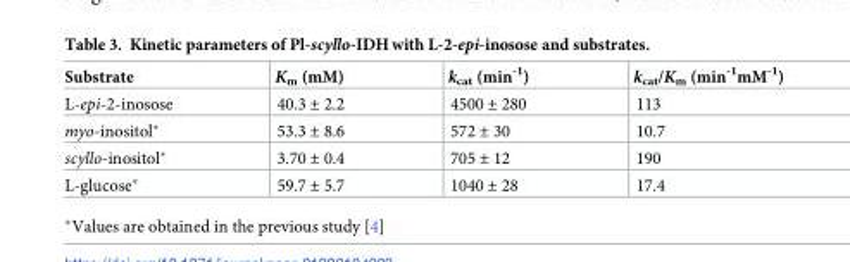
<table><thead><tr><td>Substrate</td><td>K<sub>m</sub> (mM)</td><td>k<sub>cat</sub> (min<sup>-1</sup>)</td><td>k<sub>cat</sub>/K<sub>m</sub> (min<sup>-1</sup>mM<sup>-1</sup>)</td></tr></thead><tbody><tr><td>L-epi-2-inosose</td><td>40.3 ± 2.2</td><td>4500 ± 280</td><td>113</td></tr><tr><td>myo-inositol*</td><td>53.3 ± 8.6</td><td>572 ± 30</td><td>10.7</td></tr><tr><td>scyllo-inositol*</td><td>3.70 ± 0.4</td><td>705 ± 12</td><td>190</td></tr><tr><td>L-glucose*</td><td>59.7 ± 5.7</td><td>1040 ± 28</td><td>17.4</td></tr></tbody></table>